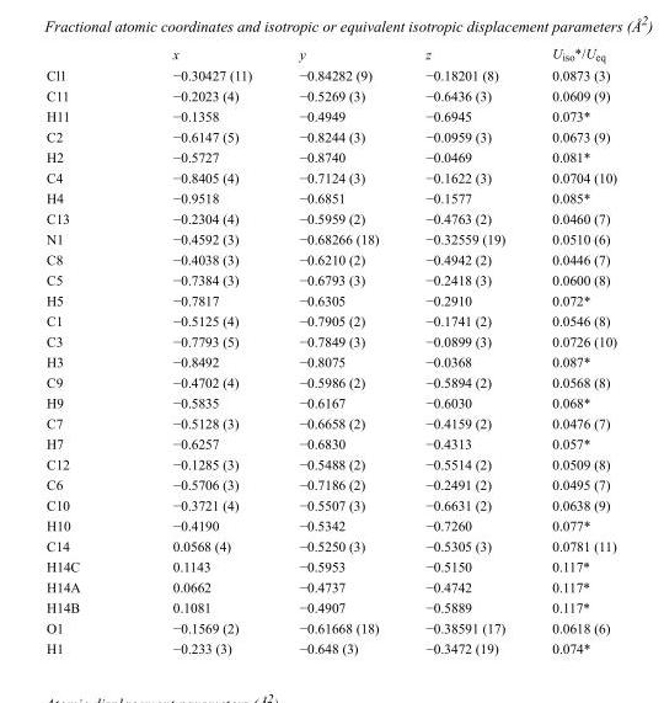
<table><thead><tr><td></td><td>x</td><td>y</td><td>z</td><td>U<sub>iso</sub>*/U<sub>eq</sub></td></tr></thead><tbody><tr><td>Cl1</td><td>−0.30427 (11)</td><td>−0.84282 (9)</td><td>−0.18201 (8)</td><td>0.0873 (3)</td></tr><tr><td>C11</td><td>−0.2023 (4)</td><td>−0.5269 (3)</td><td>−0.6436 (3)</td><td>0.0609 (9)</td></tr><tr><td>H11</td><td>−0.1358</td><td>−0.4949</td><td>−0.6945</td><td>0.073*</td></tr><tr><td>C2</td><td>−0.6147 (5)</td><td>−0.8244 (3)</td><td>−0.0959 (3)</td><td>0.0673 (9)</td></tr><tr><td>H2</td><td>−0.5727</td><td>−0.8740</td><td>−0.0469</td><td>0.081*</td></tr><tr><td>C4</td><td>−0.8405 (4)</td><td>−0.7124 (3)</td><td>−0.1622 (3)</td><td>0.0704 (10)</td></tr><tr><td>H4</td><td>−0.9518</td><td>−0.6851</td><td>−0.1577</td><td>0.085*</td></tr><tr><td>C13</td><td>−0.2304 (4)</td><td>−0.5959 (2)</td><td>−0.4763 (2)</td><td>0.0460 (7)</td></tr><tr><td>N1</td><td>−0.4592 (3)</td><td>−0.68266 (18)</td><td>−0.32559 (19)</td><td>0.0510 (6)</td></tr><tr><td>C8</td><td>−0.4038 (3)</td><td>−0.6210 (2)</td><td>−0.4942 (2)</td><td>0.0446 (7)</td></tr><tr><td>C5</td><td>−0.7384 (3)</td><td>−0.6793 (3)</td><td>−0.2418 (3)</td><td>0.0600 (8)</td></tr><tr><td>H5</td><td>−0.7817</td><td>−0.6305</td><td>−0.2910</td><td>0.072*</td></tr><tr><td>C1</td><td>−0.5125 (4)</td><td>−0.7905 (2)</td><td>−0.1741 (2)</td><td>0.0546 (8)</td></tr><tr><td>C3</td><td>−0.7793 (5)</td><td>−0.7849 (3)</td><td>−0.0899 (3)</td><td>0.0726 (10)</td></tr><tr><td>H3</td><td>−0.8492</td><td>−0.8075</td><td>−0.0368</td><td>0.087*</td></tr><tr><td>C9</td><td>−0.4702 (4)</td><td>−0.5986 (2)</td><td>−0.5894 (2)</td><td>0.0568 (8)</td></tr><tr><td>H9</td><td>−0.5835</td><td>−0.6167</td><td>−0.6030</td><td>0.068*</td></tr><tr><td>C7</td><td>−0.5128 (3)</td><td>−0.6658 (2)</td><td>−0.4159 (2)</td><td>0.0476 (7)</td></tr><tr><td>H7</td><td>−0.6257</td><td>−0.6830</td><td>−0.4313</td><td>0.057*</td></tr><tr><td>C12</td><td>−0.1285 (3)</td><td>−0.5488 (2)</td><td>−0.5514 (2)</td><td>0.0509 (8)</td></tr><tr><td>C6</td><td>−0.5706 (3)</td><td>−0.7186 (2)</td><td>−0.2491 (2)</td><td>0.0495 (7)</td></tr><tr><td>C10</td><td>−0.3721 (4)</td><td>−0.5507 (3)</td><td>−0.6631 (2)</td><td>0.0638 (9)</td></tr><tr><td>H10</td><td>−0.4190</td><td>−0.5342</td><td>−0.7260</td><td>0.077*</td></tr><tr><td>C14</td><td>0.0568 (4)</td><td>−0.5250 (3)</td><td>−0.5305 (3)</td><td>0.0781 (11)</td></tr><tr><td>H14C</td><td>0.1143</td><td>−0.5953</td><td>−0.5150</td><td>0.117*</td></tr><tr><td>H14A</td><td>0.0662</td><td>−0.4737</td><td>−0.4742</td><td>0.117*</td></tr><tr><td>H14B</td><td>0.1081</td><td>−0.4907</td><td>−0.5889</td><td>0.117*</td></tr><tr><td>O1</td><td>−0.1569 (2)</td><td>−0.61668 (18)</td><td>−0.38591 (17)</td><td>0.0618 (6)</td></tr><tr><td>H1</td><td>−0.233 (3)</td><td>−0.648 (3)</td><td>−0.3472 (19)</td><td>0.074*</td></tr></tbody></table>